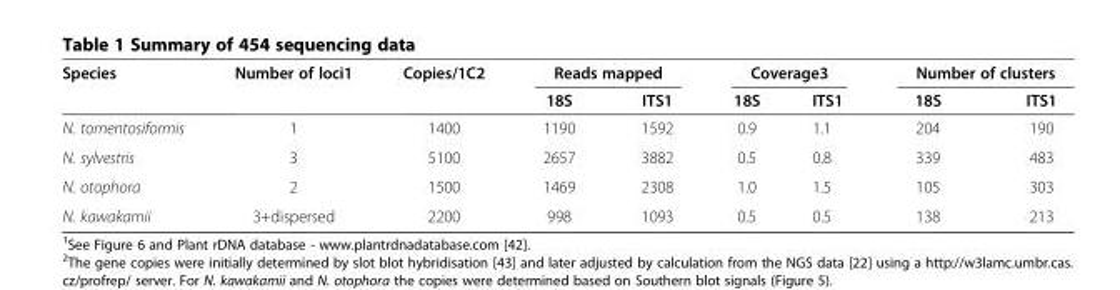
<table><thead><tr><td rowspan="2">Species</td><td rowspan="2">Number of loci1</td><td rowspan="2">Copies/1C2</td><td colspan="2">Reads mapped</td><td colspan="2">Coverage3</td><td colspan="2">Number of clusters</td></tr><tr><td>18S</td><td>ITS1</td><td>18S</td><td>ITS1</td><td>18S</td><td>ITS1</td></tr></thead><tbody><tr><td>N. tomentosiformis</td><td>1</td><td>1400</td><td>1190</td><td>1592</td><td>0.9</td><td>1.1</td><td>204</td><td>190</td></tr><tr><td>N. sylvestris</td><td>3</td><td>5100</td><td>2657</td><td>3882</td><td>0.5</td><td>0.8</td><td>339</td><td>483</td></tr><tr><td>N. otophora</td><td>2</td><td>1500</td><td>1469</td><td>2308</td><td>1.0</td><td>1.5</td><td>105</td><td>303</td></tr><tr><td>N. kawakamii</td><td>3+dispersed</td><td>2200</td><td>998</td><td>1093</td><td>0.5</td><td>0.5</td><td>138</td><td>213</td></tr></tbody></table>